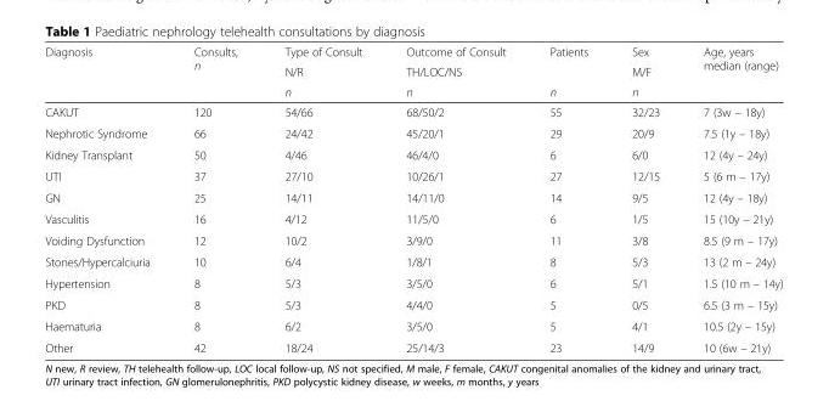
<table><thead><tr><td rowspan="3">Diagnosis</td><td rowspan="3">Consults, n</td><td rowspan="3">Type of Consult N/R n</td><td rowspan="3">Outcome of Consult TH/LOC/NS n</td><td rowspan="3">Patients n</td><td rowspan="3">Sex M/F n</td><td rowspan="3">Age, years median (range)</td></tr><tr></tr><tr></tr></thead><tbody><tr><td>CAKUT</td><td>120</td><td>54/66</td><td>68/50/2</td><td>55</td><td>32/23</td><td>7 (3w – 18y)</td></tr><tr><td>Nephrotic Syndrome</td><td>66</td><td>24/42</td><td>45/20/1</td><td>29</td><td>20/9</td><td>7.5 (1y – 18y)</td></tr><tr><td>Kidney Transplant</td><td>50</td><td>4/46</td><td>46/4/0</td><td>6</td><td>6/0</td><td>12 (4y – 24y)</td></tr><tr><td>UTI</td><td>37</td><td>27/10</td><td>10/26/1</td><td>27</td><td>12/15</td><td>5 (6 m – 17y)</td></tr><tr><td>GN</td><td>25</td><td>14/11</td><td>14/11/0</td><td>14</td><td>9/5</td><td>12 (4y – 18y)</td></tr><tr><td>Vasculitis</td><td>16</td><td>4/12</td><td>11/5/0</td><td>6</td><td>1/5</td><td>15 (10y – 21y)</td></tr><tr><td>Voiding Dysfunction</td><td>12</td><td>10/2</td><td>3/9/0</td><td>11</td><td>3/8</td><td>8.5 (9 m – 17y)</td></tr><tr><td>Stones/Hypercalciuria</td><td>10</td><td>6/4</td><td>1/8/1</td><td>8</td><td>5/3</td><td>13 (2 m – 24y)</td></tr><tr><td>Hypertension</td><td>8</td><td>5/3</td><td>3/5/0</td><td>6</td><td>5/1</td><td>1.5 (10 m – 14y)</td></tr><tr><td>PKD</td><td>8</td><td>5/3</td><td>4/4/0</td><td>5</td><td>0/5</td><td>6.5 (3 m – 15y)</td></tr><tr><td>Haematuria</td><td>8</td><td>6/2</td><td>3/5/0</td><td>5</td><td>4/1</td><td>10.5 (2y – 15y)</td></tr><tr><td>Other</td><td>42</td><td>18/24</td><td>25/14/3</td><td>23</td><td>14/9</td><td>10 (6w – 21y)</td></tr></tbody></table>